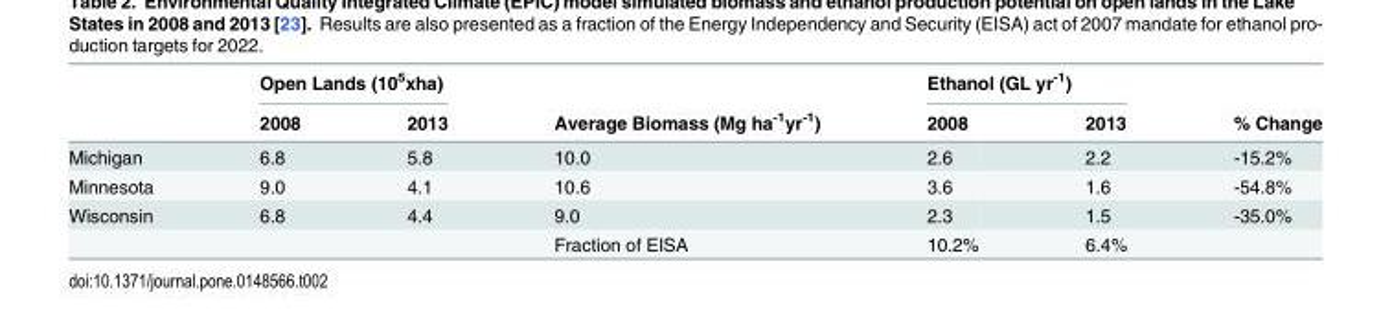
<table><thead><tr><td rowspan="2"></td><td colspan="2">Open Lands (10<sup>5</sup>xha)</td><td rowspan="2">Average Biomass (Mg ha<sup>-1</sup>yr<sup>-1</sup>)</td><td colspan="2">Ethanol (GL yr<sup>-1</sup>)</td><td rowspan="2">% Change</td></tr><tr><td>2008</td><td>2013</td><td>2008</td><td>2013</td></tr></thead><tbody><tr><td>Michigan</td><td>6.8</td><td>5.8</td><td>10.0</td><td>2.6</td><td>2.2</td><td>-15.2%</td></tr><tr><td>Minnesota</td><td>9.0</td><td>4.1</td><td>10.6</td><td>3.6</td><td>1.6</td><td>-54.8%</td></tr><tr><td rowspan="2">Wisconsin</td><td>6.8</td><td>4.4</td><td>9.0</td><td>2.3</td><td>1.5</td><td>-35.0%</td></tr><tr><td></td><td></td><td>Fraction of EISA</td><td>10.2%</td><td>6.4%</td><td></td></tr></tbody></table>